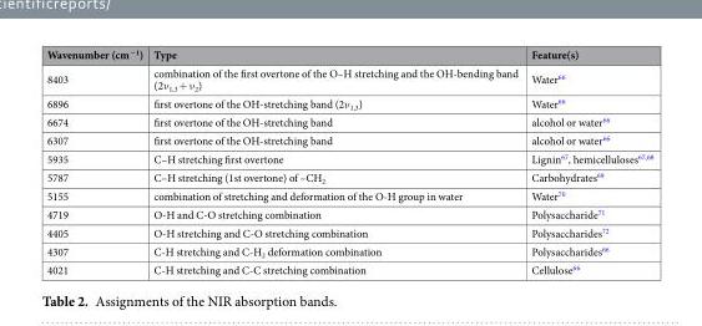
<table><thead><tr><td>Wavenumber (cm<sup>−1</sup>)</td><td>Type</td><td>Feature(s)</td></tr></thead><tbody><tr><td>8403</td><td>combination of the first overtone of the O–H stretching and the OH-bending band (2ν<sub>1,3</sub> + ν<sub>2</sub>)</td><td>Water<sup>66</sup></td></tr><tr><td>6896</td><td>first overtone of the OH-stretching band (2ν<sub>1,3</sub>)</td><td>Water<sup>66</sup></td></tr><tr><td>6674</td><td>first overtone of the OH-stretching band</td><td>alcohol or water<sup>66</sup></td></tr><tr><td>6307</td><td>first overtone of the OH-stretching band</td><td>alcohol or water<sup>66</sup></td></tr><tr><td>5935</td><td>C–H stretching first overtone</td><td>Lignin<sup>67</sup>, hemicelluloses<sup>67,68</sup></td></tr><tr><td>5787</td><td>C–H stretching (1st overtone) of –CH<sub>2</sub></td><td>Carbohydrates<sup>69</sup></td></tr><tr><td>5155</td><td>combination of stretching and deformation of the O-H group in water</td><td>Water<sup>70</sup></td></tr><tr><td>4719</td><td>O-H and C-O stretching combination</td><td>Polysaccharide<sup>71</sup></td></tr><tr><td>4405</td><td>O-H stretching and C-O stretching combination</td><td>Polysaccharides<sup>72</sup></td></tr><tr><td>4307</td><td>C-H stretching and C-H<sub>2</sub> deformation combination</td><td>Polysaccharides<sup>66</sup></td></tr><tr><td>4021</td><td>C-H stretching and C-C stretching combination</td><td>Cellulose<sup>66</sup></td></tr></tbody></table>